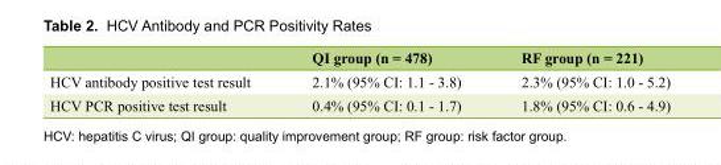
<table><thead><tr><td></td><td>QI group (n = 478)</td><td>RF group (n = 221)</td></tr></thead><tbody><tr><td>HCV antibody positive test result</td><td>2.1% (95% CI: 1.1 - 3.8)</td><td>2.3% (95% CI: 1.0 - 5.2)</td></tr><tr><td>HCV PCR positive test result</td><td>0.4% (95% CI: 0.1 - 1.7)</td><td>1.8% (95% CI: 0.6 - 4.9)</td></tr></tbody></table>